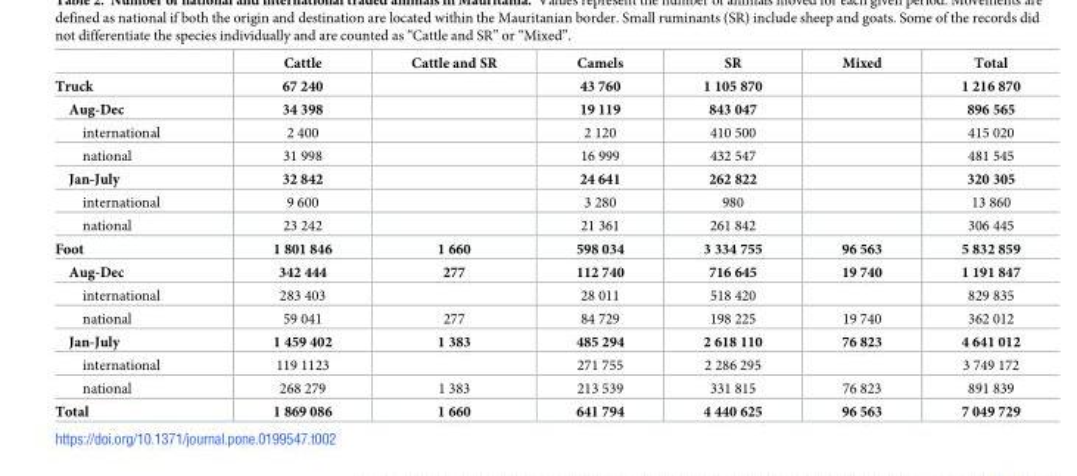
<table><thead><tr><td rowspan="2">Truck</td><td rowspan="2">Cattle 67 240</td><td rowspan="2">Cattle and SR</td><td rowspan="2">Camels 43 760</td><td rowspan="2">SR 1 105 870</td><td rowspan="2">Mixed</td><td rowspan="2">Total 1 216 870</td></tr><tr></tr></thead><tbody><tr><td>Aug-Dec</td><td>34 398</td><td></td><td>19 119</td><td>843 047</td><td></td><td>896 565</td></tr><tr><td>international</td><td>2 400</td><td></td><td>2 120</td><td>410 500</td><td></td><td>415 020</td></tr><tr><td>national</td><td>31 998</td><td></td><td>16 999</td><td>432 547</td><td></td><td>481 545</td></tr><tr><td>Jan-July</td><td>32 842</td><td></td><td>24 641</td><td>262 822</td><td></td><td>320 305</td></tr><tr><td>international</td><td>9 600</td><td></td><td>3 280</td><td>980</td><td></td><td>13 860</td></tr><tr><td>national</td><td>23 242</td><td></td><td>21 361</td><td>261 842</td><td></td><td>306 445</td></tr><tr><td>Foot</td><td>1 801 846</td><td>1 660</td><td>598 034</td><td>3 334 755</td><td>96 563</td><td>5 832 859</td></tr><tr><td>Aug-Dec</td><td>342 444</td><td>277</td><td>112 740</td><td>716 645</td><td>19 740</td><td>1 191 847</td></tr><tr><td>international</td><td>283 403</td><td></td><td>28 011</td><td>518 420</td><td></td><td>829 835</td></tr><tr><td>national</td><td>59 041</td><td>277</td><td>84 729</td><td>198 225</td><td>19 740</td><td>362 012</td></tr><tr><td>Jan-July</td><td>1 459 402</td><td>1 383</td><td>485 294</td><td>2 618 110</td><td>76 823</td><td>4 641 012</td></tr><tr><td>international</td><td>119 1123</td><td></td><td>271 755</td><td>2 286 295</td><td></td><td>3 749 172</td></tr><tr><td>national</td><td>268 279</td><td>1 383</td><td>213 539</td><td>331 815</td><td>76 823</td><td>891 839</td></tr><tr><td>Total</td><td>1 869 086</td><td>1 660</td><td>641 794</td><td>4 440 625</td><td>96 563</td><td>7 049 729</td></tr></tbody></table>